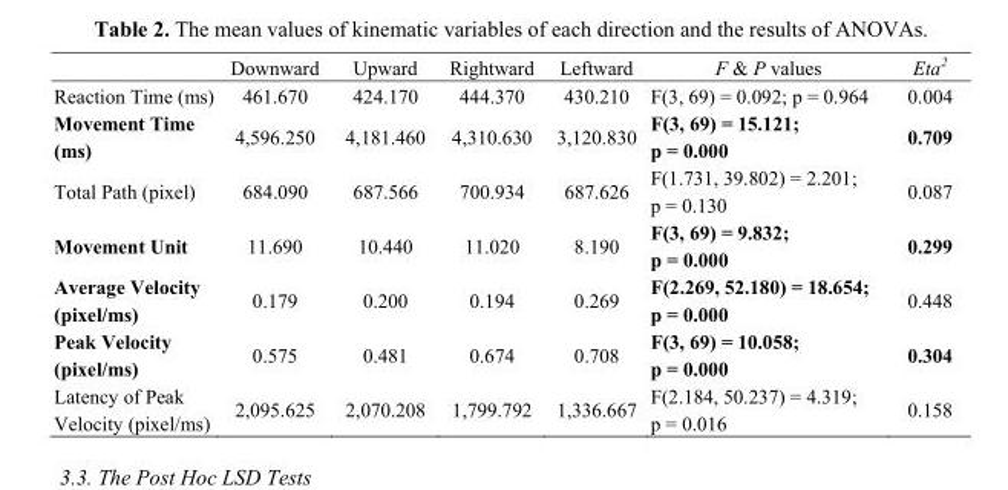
<table><thead><tr><td></td><td>Downward</td><td>Upward</td><td>Rightward</td><td>Leftward</td><td>F &amp; P values</td><td>Eta<sup>2</sup></td></tr></thead><tbody><tr><td>Reaction Time (ms)</td><td>461.670</td><td>424.170</td><td>444.370</td><td>430.210</td><td>F(3, 69) = 0.092; p = 0.964</td><td>0.004</td></tr><tr><td>Movement Time (ms)</td><td>4,596.250</td><td>4,181.460</td><td>4,310.630</td><td>3,120.830</td><td>F(3, 69) = 15.121; p = 0.000</td><td>0.709</td></tr><tr><td>Total Path (pixel)</td><td>684.090</td><td>687.566</td><td>700.934</td><td>687.626</td><td>F(1.731, 39.802) = 2.201; p = 0.130</td><td>0.087</td></tr><tr><td>Movement Unit</td><td>11.690</td><td>10.440</td><td>11.020</td><td>8.190</td><td>F(3, 69) = 9.832; p = 0.000</td><td>0.299</td></tr><tr><td>Average Velocity (pixel/ms)</td><td>0.179</td><td>0.200</td><td>0.194</td><td>0.269</td><td>F(2.269, 52.180) = 18.654; p = 0.000</td><td>0.448</td></tr><tr><td>Peak Velocity (pixel/ms)</td><td>0.575</td><td>0.481</td><td>0.674</td><td>0.708</td><td>F(3, 69) = 10.058; p = 0.000</td><td>0.304</td></tr><tr><td>Latency of Peak Velocity (pixel/ms)</td><td>2,095.625</td><td>2,070.208</td><td>1,799.792</td><td>1,336.667</td><td>F(2.184, 50.237) = 4.319; p = 0.016</td><td>0.158</td></tr></tbody></table>